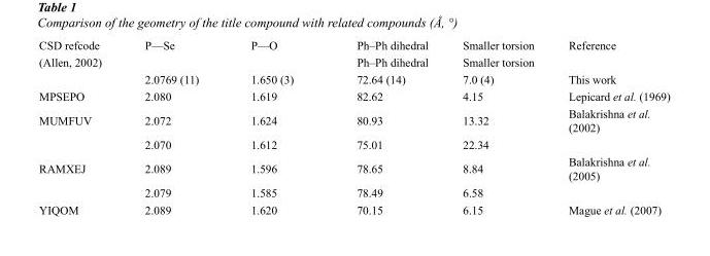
<table><tbody><tr><td>CSD refcode</td><td>P—Se</td><td>P—O</td><td>Ph–Ph dihedral</td><td>Smaller torsion</td><td>Reference</td></tr><tr><td rowspan="2">(Allen, 2002)</td><td></td><td></td><td>Ph–Ph dihedral</td><td>Smaller torsion</td><td></td></tr><tr><td>2.0769 (11)</td><td>1.650 (3)</td><td>72.64 (14)</td><td>7.0 (4)</td><td>This work</td></tr><tr><td>MPSEPO</td><td>2.080</td><td>1.619</td><td>82.62</td><td>4.15</td><td>Lepicard et al. (1969)</td></tr><tr><td rowspan="2">MUMFUV</td><td>2.072</td><td>1.624</td><td>80.93</td><td>13.32</td><td>Balakrishna et al. (2002)</td></tr><tr><td>2.070</td><td>1.612</td><td>75.01</td><td>22.34</td><td></td></tr><tr><td rowspan="2">RAMXEJ</td><td>2.089</td><td>1.596</td><td>78.65</td><td>8.84</td><td>Balakrishna et al. (2005)</td></tr><tr><td>2.079</td><td>1.585</td><td>78.49</td><td>6.58</td><td></td></tr><tr><td>YIQOM</td><td>2.089</td><td>1.620</td><td>70.15</td><td>6.15</td><td>Mague et al. (2007)</td></tr></tbody></table>